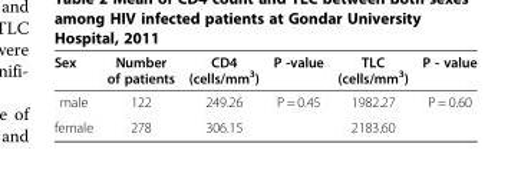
<table><thead><tr><td>Sex</td><td>Number of patients</td><td>CD4 (cells/mm<sup>3</sup>)</td><td>P -value</td><td>TLC (cells/mm<sup>3</sup>)</td><td>P - value</td></tr></thead><tbody><tr><td>male</td><td>122</td><td>249.26</td><td>P = 0.45</td><td>1982.27</td><td>P = 0.60</td></tr><tr><td>female</td><td>278</td><td>306.15</td><td></td><td>2183.60</td><td></td></tr></tbody></table>